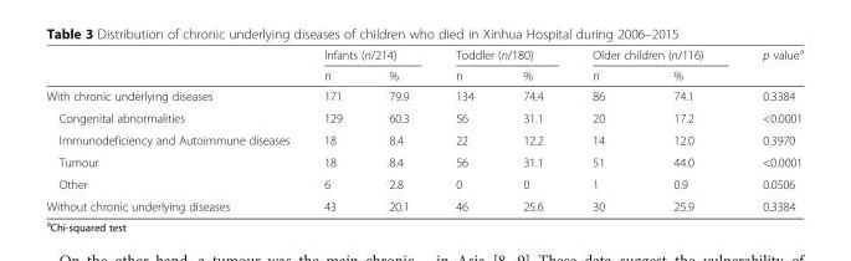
<table><thead><tr><td rowspan="2"></td><td colspan="2">Infants (n/214)</td><td colspan="2">Toddler (n/180)</td><td colspan="2">Older children (n/116)</td><td rowspan="2">p value<sup>a</sup></td></tr><tr><td>n</td><td>%</td><td>n</td><td>%</td><td>n</td><td>%</td></tr></thead><tbody><tr><td>With chronic underlying diseases</td><td>171</td><td>79.9</td><td>134</td><td>74.4</td><td>86</td><td>74.1</td><td>0.3384</td></tr><tr><td>Congenital abnormalities</td><td>129</td><td>60.3</td><td>56</td><td>31.1</td><td>20</td><td>17.2</td><td>&lt;0.0001</td></tr><tr><td>Immunodeficiency and Autoimmune diseases</td><td>18</td><td>8.4</td><td>22</td><td>12.2</td><td>14</td><td>12.0</td><td>0.3970</td></tr><tr><td>Tumour</td><td>18</td><td>8.4</td><td>56</td><td>31.1</td><td>51</td><td>44.0</td><td>&lt;0.0001</td></tr><tr><td>Other</td><td>6</td><td>2.8</td><td>0</td><td>0</td><td>1</td><td>0.9</td><td>0.0506</td></tr><tr><td>Without chronic underlying diseases</td><td>43</td><td>20.1</td><td>46</td><td>25.6</td><td>30</td><td>25.9</td><td>0.3384</td></tr></tbody></table>